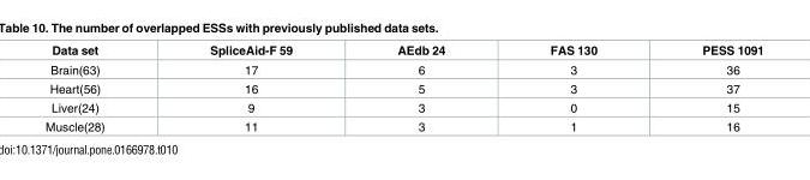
<table><thead><tr><td>Data set</td><td>SpliceAid-F 59</td><td>AEdb 24</td><td>FAS 130</td><td>PESS 1091</td></tr></thead><tbody><tr><td>Brain(63)</td><td>17</td><td>6</td><td>3</td><td>36</td></tr><tr><td>Heart(56)</td><td>16</td><td>5</td><td>3</td><td>37</td></tr><tr><td>Liver(24)</td><td>9</td><td>3</td><td>0</td><td>15</td></tr><tr><td>Muscle(28)</td><td>11</td><td>3</td><td>1</td><td>16</td></tr></tbody></table>